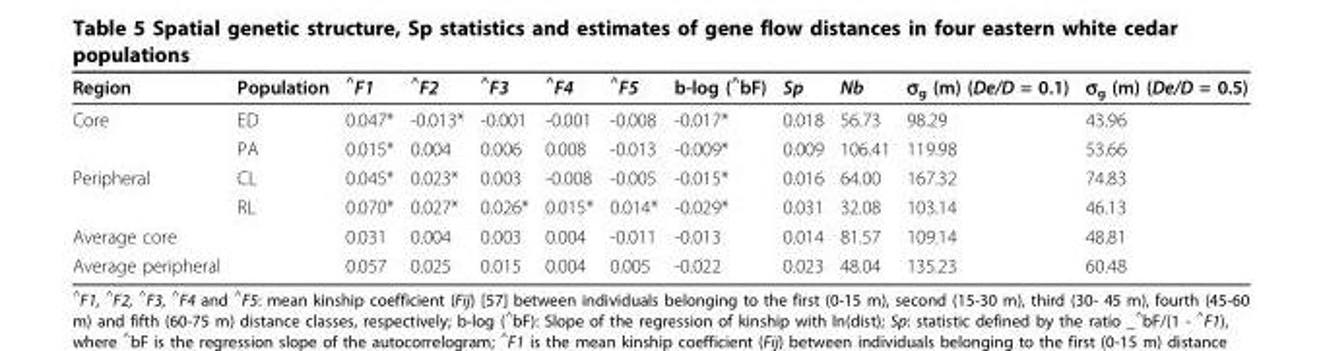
<table><thead><tr><td>Region</td><td>Population</td><td><sup>^</sup>F1</td><td><sup>^</sup>F2</td><td><sup>^</sup>F3</td><td><sup>^</sup>F4</td><td><sup>^</sup>F5</td><td>b-log (<sup>^</sup>bF)</td><td>Sp</td><td>Nb</td><td>σ<sub>g</sub> (m) (De/D = 0.1)</td><td>σ<sub>g</sub> (m) (De/D = 0.5)</td></tr></thead><tbody><tr><td rowspan="2">Core</td><td>ED</td><td>0.047*</td><td>-0.013*</td><td>-0.001</td><td>-0.001</td><td>-0.008</td><td>-0.017*</td><td>0.018</td><td>56.73</td><td>98.29</td><td>43.96</td></tr><tr><td>PA</td><td>0.015*</td><td>0.004</td><td>0.006</td><td>0.008</td><td>-0.013</td><td>-0.009*</td><td>0.009</td><td>106.41</td><td>119.98</td><td>53.66</td></tr><tr><td rowspan="2">Peripheral</td><td>CL</td><td>0.045*</td><td>0.023*</td><td>0.003</td><td>-0.008</td><td>-0.005</td><td>-0.015*</td><td>0.016</td><td>64.00</td><td>167.32</td><td>74.83</td></tr><tr><td>RL</td><td>0.070*</td><td>0.027*</td><td>0.026*</td><td>0.015*</td><td>0.014*</td><td>-0.029*</td><td>0.031</td><td>32.08</td><td>103.14</td><td>46.13</td></tr><tr><td>Average core</td><td></td><td>0.031</td><td>0.004</td><td>0.003</td><td>0.004</td><td>-0.011</td><td>-0.013</td><td>0.014</td><td>81.57</td><td>109.14</td><td>48.81</td></tr><tr><td>Average peripheral</td><td></td><td>0.057</td><td>0.025</td><td>0.015</td><td>0.004</td><td>0.005</td><td>-0.022</td><td>0.023</td><td>48.04</td><td>135.23</td><td>60.48</td></tr></tbody></table>